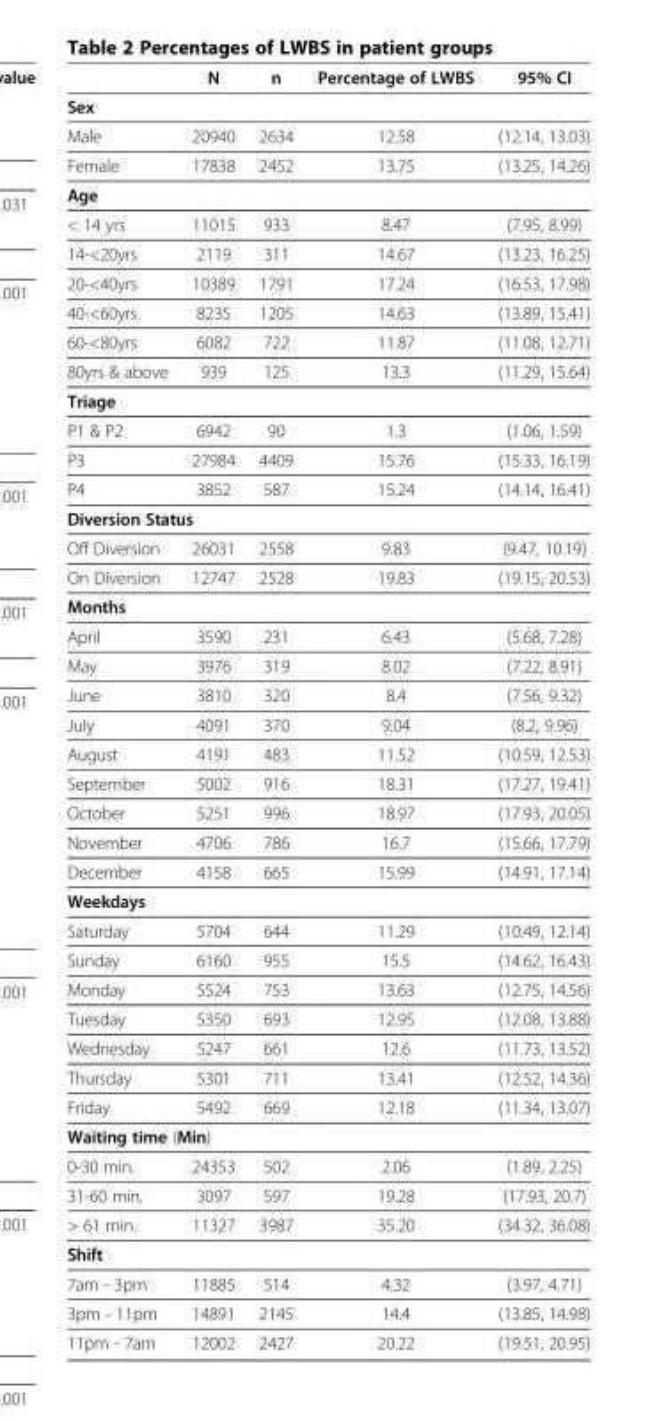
<table><thead><tr><td></td><td>N</td><td>n</td><td>Percentage of LWBS</td><td>95% CI</td></tr></thead><tbody><tr><td colspan="5">Sex</td></tr><tr><td>Male</td><td>20940</td><td>2634</td><td>12.58</td><td>(12.14, 13.03)</td></tr><tr><td>Female</td><td>17838</td><td>2452</td><td>13.75</td><td>(13.25, 14.26)</td></tr><tr><td colspan="5">Age</td></tr><tr><td>&lt; 14 yrs</td><td>11015</td><td>933</td><td>8.47</td><td>(7.95, 8.99)</td></tr><tr><td>14-&lt;20yrs</td><td>2119</td><td>311</td><td>14.67</td><td>(13.23, 16.25)</td></tr><tr><td>20-&lt;40yrs</td><td>10389</td><td>1791</td><td>17.24</td><td>(16.53, 17.98)</td></tr><tr><td>40-&lt;60yrs</td><td>8235</td><td>1205</td><td>14.63</td><td>(13.89, 15.41)</td></tr><tr><td>60-&lt;80yrs</td><td>6082</td><td>722</td><td>11.87</td><td>(11.08, 12.71)</td></tr><tr><td>80yrs &amp; above</td><td>939</td><td>125</td><td>13.3</td><td>(11.29, 15.64)</td></tr><tr><td colspan="5">Triage</td></tr><tr><td>P1 &amp; P2</td><td>6942</td><td>90</td><td>1.3</td><td>(1.06, 1.59)</td></tr><tr><td>P3</td><td>27984</td><td>4409</td><td>15.76</td><td>(15.33, 16.19)</td></tr><tr><td>P4</td><td>3852</td><td>587</td><td>15.24</td><td>(14.14, 16.41)</td></tr><tr><td colspan="5">Diversion Status</td></tr><tr><td>Off Diversion</td><td>26031</td><td>2558</td><td>9.83</td><td>(9.47, 10.19)</td></tr><tr><td>On Diversion</td><td>12747</td><td>2528</td><td>19.83</td><td>(19.15, 20.53)</td></tr><tr><td colspan="5">Months</td></tr><tr><td>April</td><td>3590</td><td>231</td><td>6.43</td><td>(5.68, 7.28)</td></tr><tr><td>May</td><td>3976</td><td>319</td><td>8.02</td><td>(7.22, 8.91)</td></tr><tr><td>June</td><td>3810</td><td>320</td><td>8.4</td><td>(7.56, 9.32)</td></tr><tr><td>July</td><td>4091</td><td>370</td><td>9.04</td><td>(8.2, 9.96)</td></tr><tr><td>August</td><td>4191</td><td>483</td><td>11.52</td><td>(10.59, 12.53)</td></tr><tr><td>September</td><td>5002</td><td>916</td><td>18.31</td><td>(17.27, 19.41)</td></tr><tr><td>October</td><td>5251</td><td>996</td><td>18.97</td><td>(17.93, 20.05)</td></tr><tr><td>November</td><td>4706</td><td>786</td><td>16.7</td><td>(15.66, 17.79)</td></tr><tr><td>December</td><td>4158</td><td>665</td><td>15.99</td><td>(14.91, 17.14)</td></tr><tr><td colspan="5">Weekdays</td></tr><tr><td>Saturday</td><td>5704</td><td>644</td><td>11.29</td><td>(10.49, 12.14)</td></tr><tr><td>Sunday</td><td>6160</td><td>955</td><td>15.5</td><td>(14.62, 16.43)</td></tr><tr><td>Monday</td><td>5524</td><td>753</td><td>13.63</td><td>(12.75, 14.56)</td></tr><tr><td>Tuesday</td><td>5350</td><td>693</td><td>12.95</td><td>(12.08, 13.88)</td></tr><tr><td>Wednesday</td><td>5247</td><td>661</td><td>12.6</td><td>(11.73, 13.52)</td></tr><tr><td>Thursday</td><td>5301</td><td>711</td><td>13.41</td><td>(12.52, 14.36)</td></tr><tr><td>Friday</td><td>5492</td><td>669</td><td>12.18</td><td>(11.34, 13.07)</td></tr><tr><td colspan="5">Waiting time (Min)</td></tr><tr><td>0-30 min.</td><td>24353</td><td>502</td><td>2.06</td><td>(1.89, 2.25)</td></tr><tr><td>31-60 min.</td><td>3097</td><td>597</td><td>19.28</td><td>(17.93, 20.7)</td></tr><tr><td>&gt; 61 min.</td><td>11327</td><td>3987</td><td>35.20</td><td>(34.32, 36.08)</td></tr><tr><td colspan="5">Shift</td></tr><tr><td>7am - 3pm</td><td>11885</td><td>514</td><td>4.32</td><td>(3.97, 4.71)</td></tr><tr><td>3pm - 11pm</td><td>14891</td><td>2145</td><td>14.4</td><td>(13.85, 14.98)</td></tr><tr><td>11pm - 7am</td><td>12002</td><td>2427</td><td>20.22</td><td>(19.51, 20.95)</td></tr></tbody></table>